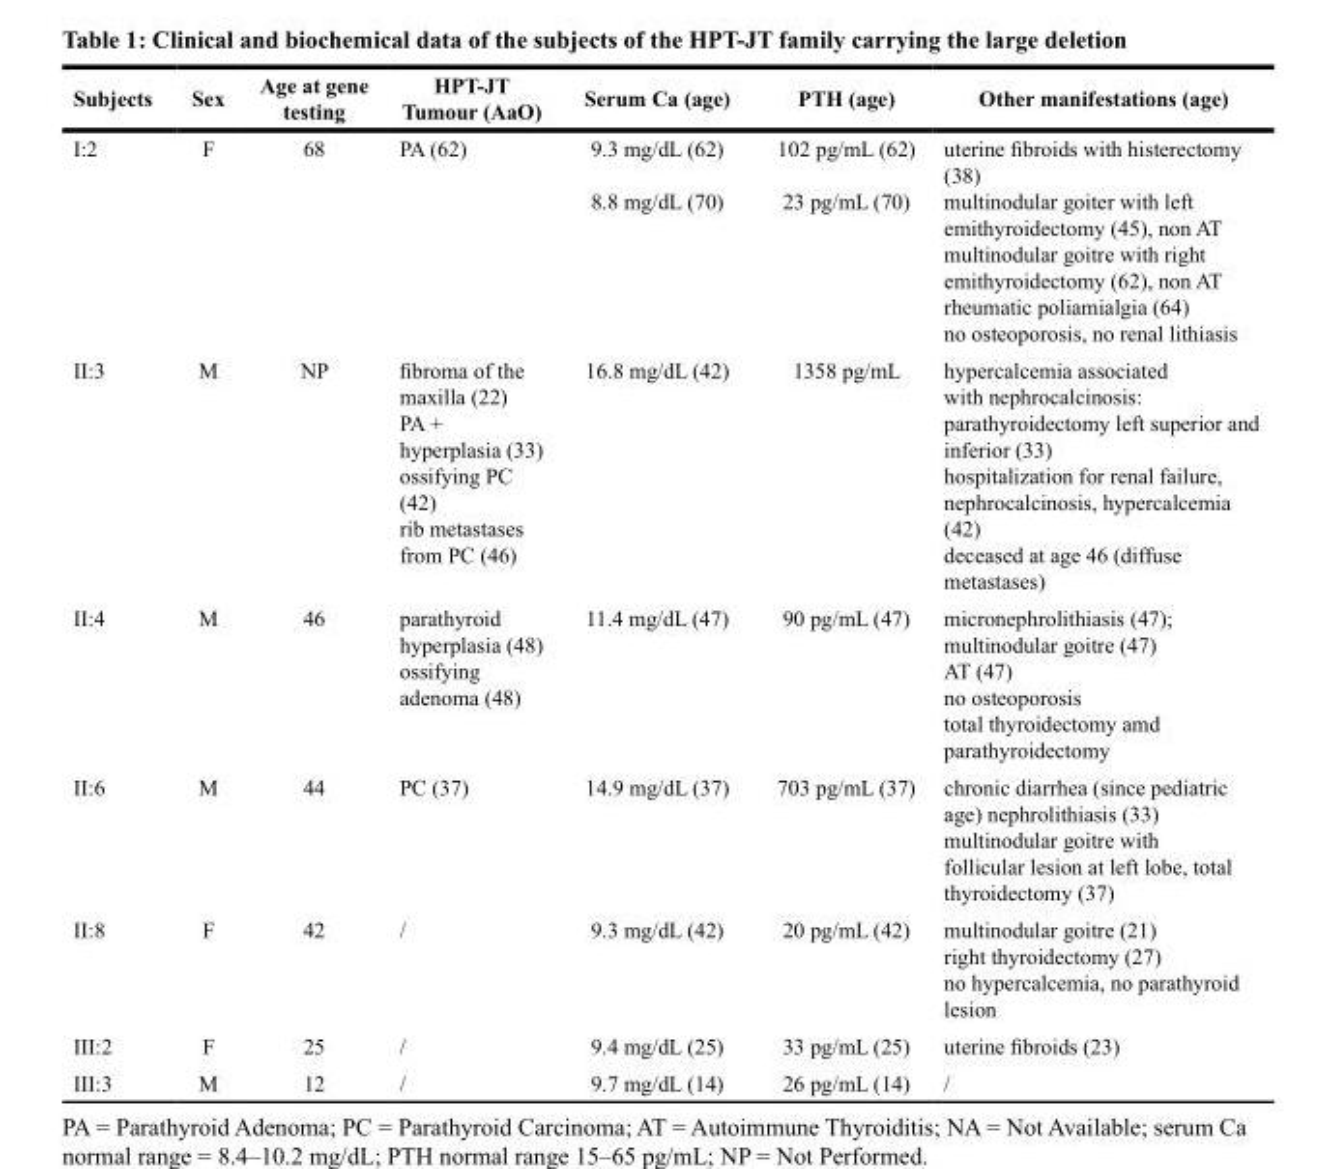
<table><thead><tr><td>Subjects</td><td>Sex</td><td>Age at gene testing</td><td>HPT-JT Tumour (AaO)</td><td>Serum Ca (age)</td><td>PTH (age)</td><td>Other manifestations (age)</td></tr></thead><tbody><tr><td>I:2</td><td>F</td><td>68</td><td>PA (62)</td><td>9.3 mg/dL (62) 8.8 mg/dL (70)</td><td>102 pg/mL (62) 23 pg/mL (70)</td><td>uterine fibroids with histerectomy (38) multinodular goiter with left emithyroidectomy (45), non AT multinodular goitre with right emithyroidectomy (62), non AT rheumatic poliamialgia (64) no osteoporosis, no renal lithiasis</td></tr><tr><td>II:3</td><td>M</td><td>NP</td><td>fibroma of the maxilla (22) PA + hyperplasia (33) ossifying PC (42) rib metastases from PC (46)</td><td>16.8 mg/dL (42)</td><td>1358 pg/mL</td><td>hypercalcemia associated with nephrocalcinosis: parathyroidectomy left superior and inferior (33) hospitalization for renal failure, nephrocalcinosis, hypercalcemia (42) deceased at age 46 (diffuse metastases)</td></tr><tr><td>II:4</td><td>M</td><td>46</td><td>parathyroid hyperplasia (48) ossifying adenoma (48)</td><td>11.4 mg/dL (47)</td><td>90 pg/mL (47)</td><td>micronephrolithiasis (47); multinodular goitre (47) AT (47) no osteoporosis total thyroidectomy amd parathyroidectomy</td></tr><tr><td>II:6</td><td>M</td><td>44</td><td>PC (37)</td><td>14.9 mg/dL (37)</td><td>703 pg/mL (37)</td><td>chronic diarrhea (since pediatric age) nephrolithiasis (33) multinodular goitre with follicular lesion at left lobe, total thyroidectomy (37)</td></tr><tr><td>II:8</td><td>F</td><td>42</td><td>/</td><td>9.3 mg/dL (42)</td><td>20 pg/mL (42)</td><td>multinodular goitre (21) right thyroidectomy (27) no hypercalcemia, no parathyroid lesion</td></tr><tr><td>III:2</td><td>F</td><td>25</td><td>/</td><td>9.4 mg/dL (25)</td><td>33 pg/mL (25)</td><td>uterine fibroids (23)</td></tr><tr><td>III:3</td><td>M</td><td>12</td><td>/</td><td>9.7 mg/dL (14)</td><td>26 pg/mL (14)</td><td>/</td></tr></tbody></table>